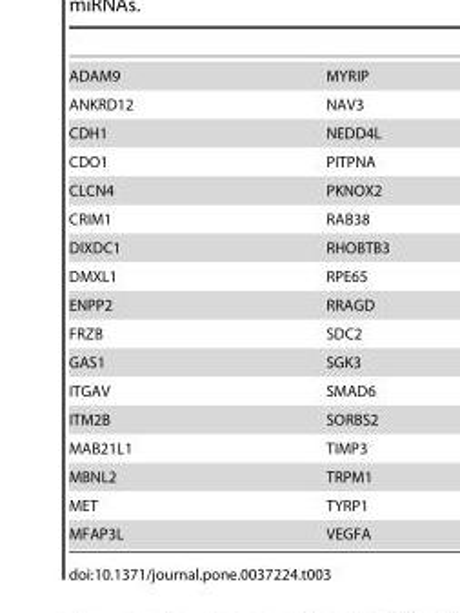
<table><tbody><tr><td>ADAM9</td><td>MYRIP</td></tr><tr><td>ANKRD12</td><td>NAV3</td></tr><tr><td>CDH1</td><td>NEDD4L</td></tr><tr><td>CDO1</td><td>PITPNA</td></tr><tr><td>CLCN4</td><td>PKNOX2</td></tr><tr><td>CRIM1</td><td>RAB38</td></tr><tr><td>DIXDC1</td><td>RHOBTB3</td></tr><tr><td>DMXL1</td><td>RPE65</td></tr><tr><td>ENPP2</td><td>RRAGD</td></tr><tr><td>FRZB</td><td>SDC2</td></tr><tr><td>GAS1</td><td>SGK3</td></tr><tr><td>ITGAV</td><td>SMAD6</td></tr><tr><td>ITM2B</td><td>SORBS2</td></tr><tr><td>MAB21L1</td><td>TIMP3</td></tr><tr><td>MBNL2</td><td>TRPM1</td></tr><tr><td>MET</td><td>TYRP1</td></tr><tr><td>MFAP3L</td><td>VEGFA</td></tr></tbody></table>